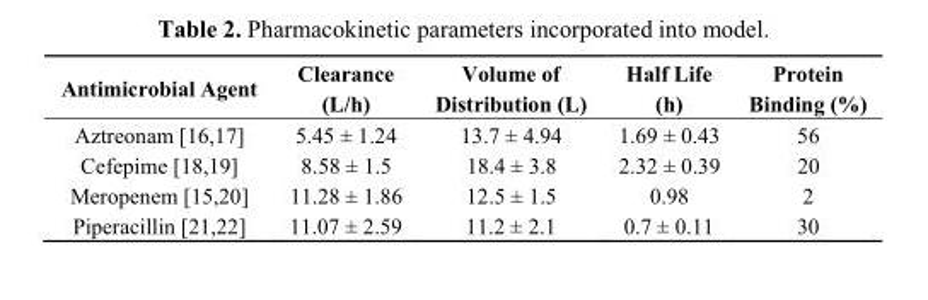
<table><thead><tr><td>Antimicrobial Agent</td><td>Clearance (L/h)</td><td>Volume of Distribution (L)</td><td>Half Life (h)</td><td>Protein Binding (%)</td></tr></thead><tbody><tr><td>Aztreonam [16,17]</td><td>5.45 ± 1.24</td><td>13.7 ± 4.94</td><td>1.69 ± 0.43</td><td>56</td></tr><tr><td>Cefepime [18,19]</td><td>8.58 ± 1.5</td><td>18.4 ± 3.8</td><td>2.32 ± 0.39</td><td>20</td></tr><tr><td>Meropenem [15,20]</td><td>11.28 ± 1.86</td><td>12.5 ± 1.5</td><td>0.98</td><td>2</td></tr><tr><td>Piperacillin [21,22]</td><td>11.07 ± 2.59</td><td>11.2 ± 2.1</td><td>0.7 ± 0.11</td><td>30</td></tr></tbody></table>